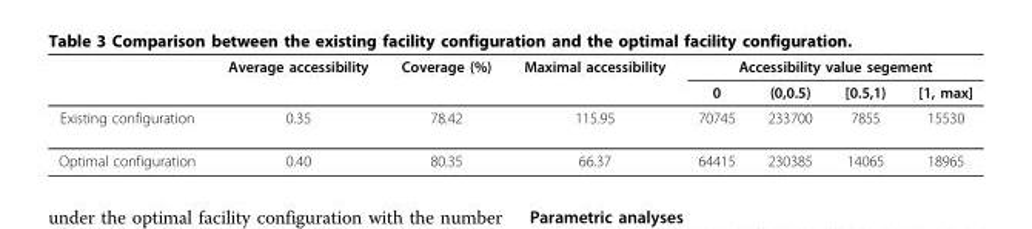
<table><thead><tr><td rowspan="2"></td><td rowspan="2">Average accessibility</td><td rowspan="2">Coverage (%)</td><td rowspan="2">Maximal accessibility</td><td colspan="4">Accessibility value segement</td></tr><tr><td>0</td><td>(0,0.5)</td><td>[0.5,1)</td><td>[1, max]</td></tr></thead><tbody><tr><td>Existing configuration</td><td>0.35</td><td>78.42</td><td>115.95</td><td>70745</td><td>233700</td><td>7855</td><td>15530</td></tr><tr><td>Optimal configuration</td><td>0.40</td><td>80.35</td><td>66.37</td><td>64415</td><td>230385</td><td>14065</td><td>18965</td></tr></tbody></table>